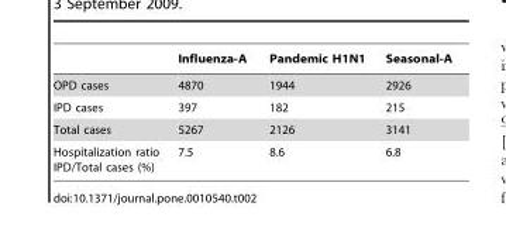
<table><thead><tr><td></td><td>Influenza-A</td><td>Pandemic H1N1</td><td>Seasonal-A</td></tr></thead><tbody><tr><td>OPD cases</td><td>4870</td><td>1944</td><td>2926</td></tr><tr><td>IPD cases</td><td>397</td><td>182</td><td>215</td></tr><tr><td>Total cases</td><td>5267</td><td>2126</td><td>3141</td></tr><tr><td>Hospitalization ratio IPD/Total cases (%)</td><td>7.5</td><td>8.6</td><td>6.8</td></tr></tbody></table>